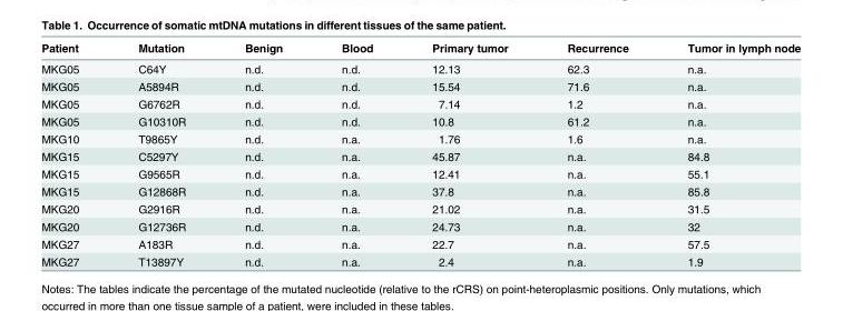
<table><thead><tr><td>Patient</td><td>Mutation</td><td>Benign</td><td>Blood</td><td>Primary tumor</td><td>Recurrence</td><td>Tumor in lymph node</td></tr></thead><tbody><tr><td>MKG05</td><td>C64Y</td><td>n.d.</td><td>n.d.</td><td>12.13</td><td>62.3</td><td>n.a.</td></tr><tr><td>MKG05</td><td>A5894R</td><td>n.d.</td><td>n.d.</td><td>15.54</td><td>71.6</td><td>n.a.</td></tr><tr><td>MKG05</td><td>G6762R</td><td>n.d.</td><td>n.d.</td><td>7.14</td><td>1.2</td><td>n.a.</td></tr><tr><td>MKG05</td><td>G10310R</td><td>n.d.</td><td>n.d.</td><td>10.8</td><td>61.2</td><td>n.a.</td></tr><tr><td>MKG10</td><td>T9865Y</td><td>n.d.</td><td>n.a.</td><td>1.76</td><td>1.6</td><td>n.a.</td></tr><tr><td>MKG15</td><td>C5297Y</td><td>n.d.</td><td>n.a.</td><td>45.87</td><td>n.a.</td><td>84.8</td></tr><tr><td>MKG15</td><td>G9565R</td><td>n.d.</td><td>n.a.</td><td>12.41</td><td>n.a.</td><td>55.1</td></tr><tr><td>MKG15</td><td>G12868R</td><td>n.d.</td><td>n.a.</td><td>37.8</td><td>n.a.</td><td>85.8</td></tr><tr><td>MKG20</td><td>G2916R</td><td>n.d.</td><td>n.a.</td><td>21.02</td><td>n.a.</td><td>31.5</td></tr><tr><td>MKG20</td><td>G12736R</td><td>n.d.</td><td>n.a.</td><td>24.73</td><td>n.a.</td><td>32</td></tr><tr><td>MKG27</td><td>A183R</td><td>n.d.</td><td>n.a.</td><td>22.7</td><td>n.a.</td><td>57.5</td></tr><tr><td>MKG27</td><td>T13897Y</td><td>n.d.</td><td>n.a.</td><td>2.4</td><td>n.a.</td><td>1.9</td></tr></tbody></table>